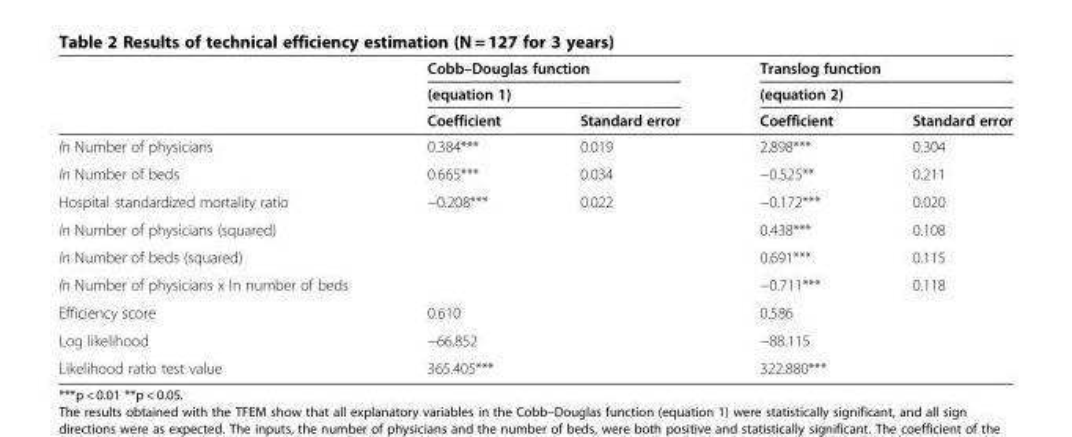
<table><thead><tr><td rowspan="3"></td><td rowspan="2" colspan="2">Cobb–Douglas function (equation 1)</td><td rowspan="2" colspan="2">Translog function (equation 2)</td></tr><tr></tr><tr><td>Coefficient</td><td>Standard error</td><td>Coefficient</td><td>Standard error</td></tr></thead><tbody><tr><td>ln Number of physicians</td><td>0.384***</td><td>0.019</td><td>2.898***</td><td>0.304</td></tr><tr><td>ln Number of beds</td><td>0.665***</td><td>0.034</td><td>−0.525**</td><td>0.211</td></tr><tr><td>Hospital standardized mortality ratio</td><td>−0.208***</td><td>0.022</td><td>−0.172***</td><td>0.020</td></tr><tr><td>ln Number of physicians (squared)</td><td></td><td></td><td>0.438***</td><td>0.108</td></tr><tr><td>ln Number of beds (squared)</td><td></td><td></td><td>0.691***</td><td>0.115</td></tr><tr><td>ln Number of physicians x ln number of beds</td><td></td><td></td><td>−0.711***</td><td>0.118</td></tr><tr><td>Efficiency score</td><td>0.610</td><td></td><td>0.586</td><td></td></tr><tr><td>Log likelihood</td><td>−66.852</td><td></td><td>−88.115</td><td></td></tr><tr><td>Likelihood ratio test value</td><td>365.405***</td><td></td><td>322.880***</td><td></td></tr></tbody></table>